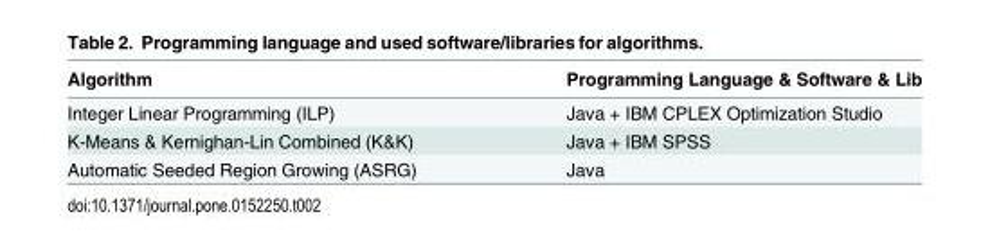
<table><thead><tr><td>Algorithm</td><td>Programming Language &amp; Software &amp; Lib</td></tr></thead><tbody><tr><td>Integer Linear Programming (ILP)</td><td>Java + IBM CPLEX Optimization Studio</td></tr><tr><td>K-Means &amp; Kernighan-Lin Combined (K&amp;K)</td><td>Java + IBM SPSS</td></tr><tr><td>Automatic Seeded Region Growing (ASRG)</td><td>Java</td></tr></tbody></table>